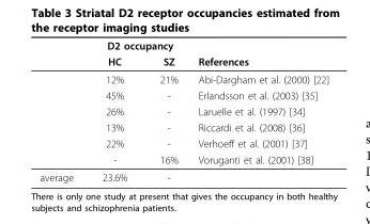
<table><thead><tr><td rowspan="2"></td><td colspan="2">D2 occupancy</td><td rowspan="2">References</td></tr><tr><td>HC</td><td>SZ</td></tr></thead><tbody><tr><td></td><td>12%</td><td>21%</td><td>Abi-Dargham et al. (2000) [22]</td></tr><tr><td></td><td>45%</td><td>-</td><td>Erlandsson et al. (2003) [35]</td></tr><tr><td></td><td>26%</td><td>-</td><td>Laruelle et al. (1997) [34]</td></tr><tr><td></td><td>13%</td><td>-</td><td>Riccardi et al. (2008) [36]</td></tr><tr><td></td><td>22%</td><td>-</td><td>Verhoeff et al. (2001) [37]</td></tr><tr><td></td><td>-</td><td>16%</td><td>Voruganti et al. (2001) [38]</td></tr><tr><td>average</td><td>23.6%</td><td>-</td><td></td></tr></tbody></table>